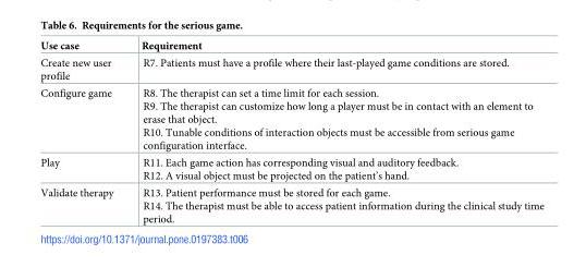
<table><thead><tr><td>Use case</td><td>Requirement</td></tr></thead><tbody><tr><td>Create new user profile</td><td>R7. Patients must have a profile where their last-played game conditions are stored.</td></tr><tr><td>Configure game</td><td>R8. The therapist can set a time limit for each session. R9. The therapist can customize how long a player must be in contact with an element to erase that object. R10. Tunable conditions of interaction objects must be accessible from serious game configuration interface.</td></tr><tr><td>Play</td><td>R11. Each game action has corresponding visual and auditory feedback. R12. A visual object must be projected on the patient’s hand.</td></tr><tr><td>Validate therapy</td><td>R13. Patient performance must be stored for each game. R14. The therapist must be able to access patient information during the clinical study time period.</td></tr></tbody></table>